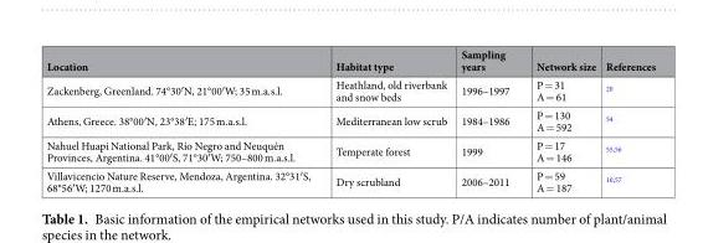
<table><thead><tr><td>Location</td><td>Habitat type</td><td>Sampling years</td><td>Network size</td><td>References</td></tr></thead><tbody><tr><td>Zackenberg, Greenland. 74°30′N, 21°00′W; 35 m.a.s.l.</td><td>Heathland, old riverbank and snow beds</td><td>1996–1997</td><td>P = 31 A = 61</td><td><sup>20</sup></td></tr><tr><td>Athens, Greece. 38°00′N, 23°38′E; 175 m.a.s.l.</td><td>Mediterranean low scrub</td><td>1984–1986</td><td>P = 130 A = 592</td><td><sup>54</sup></td></tr><tr><td>Nahuel Huapi National Park, Río Negro and Neuquén Provinces, Argentina. 41°00′S, 71°30′W; 750–800 m.a.s.l.</td><td>Temperate forest</td><td>1999</td><td>P = 17 A = 146</td><td><sup>55,56</sup></td></tr><tr><td>Villavicencio Nature Reserve, Mendoza, Argentina. 32°31′S, 68°56′W; 1270 m.a.s.l.</td><td>Dry scrubland</td><td>2006–2011</td><td>P = 59 A = 187</td><td><sup>10,57</sup></td></tr></tbody></table>